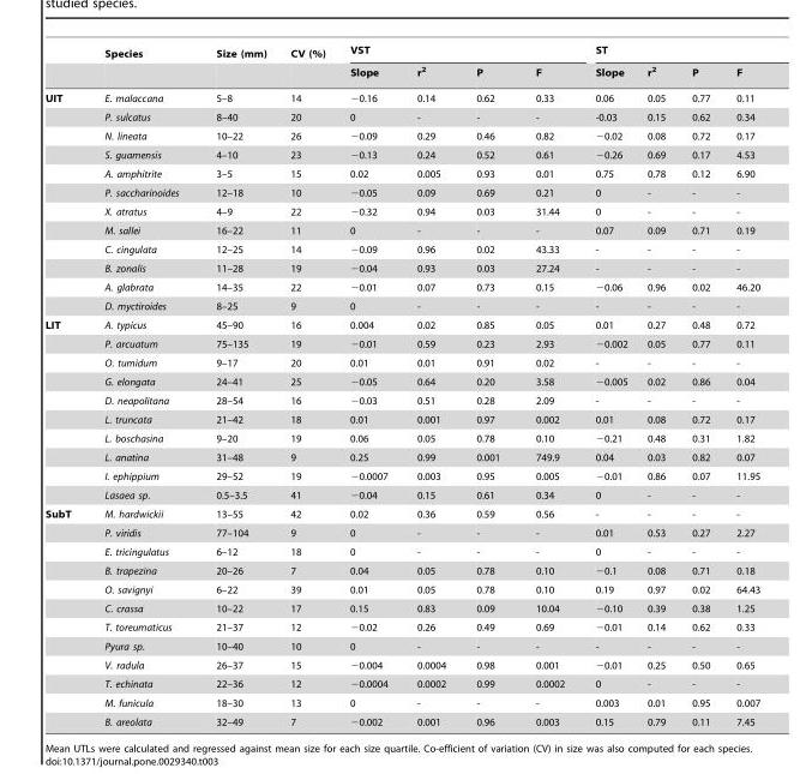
<table><thead><tr><td rowspan="2"></td><td rowspan="2">Species</td><td rowspan="2">Size (mm)</td><td rowspan="2">CV (%)</td><td colspan="4">VST</td><td colspan="4">ST</td></tr><tr><td>Slope</td><td>r<sup>2</sup></td><td>P</td><td>F</td><td>Slope</td><td>r<sup>2</sup></td><td>P</td><td>F</td></tr></thead><tbody><tr><td rowspan="12">UIT</td><td>E. malaccana</td><td>5–8</td><td>14</td><td>−0.16</td><td>0.14</td><td>0.62</td><td>0.33</td><td>0.06</td><td>0.05</td><td>0.77</td><td>0.11</td></tr><tr><td>P. sulcatus</td><td>8–40</td><td>20</td><td>0</td><td>-</td><td>-</td><td>-</td><td>-0.03</td><td>0.15</td><td>0.62</td><td>0.34</td></tr><tr><td>N. lineata</td><td>10–22</td><td>26</td><td>−0.09</td><td>0.29</td><td>0.46</td><td>0.82</td><td>−0.02</td><td>0.08</td><td>0.72</td><td>0.17</td></tr><tr><td>S. guamensis</td><td>4–10</td><td>23</td><td>−0.13</td><td>0.24</td><td>0.52</td><td>0.61</td><td>−0.26</td><td>0.69</td><td>0.17</td><td>4.53</td></tr><tr><td>A. amphitrite</td><td>3–5</td><td>15</td><td>0.02</td><td>0.005</td><td>0.93</td><td>0.01</td><td>0.75</td><td>0.78</td><td>0.12</td><td>6.90</td></tr><tr><td>P. saccharinoides</td><td>12–18</td><td>10</td><td>−0.05</td><td>0.09</td><td>0.69</td><td>0.21</td><td>0</td><td>-</td><td>-</td><td>-</td></tr><tr><td>X. atratus</td><td>4–9</td><td>22</td><td>−0.32</td><td>0.94</td><td>0.03</td><td>31.44</td><td>0</td><td>-</td><td>-</td><td>-</td></tr><tr><td>M. sallei</td><td>16–22</td><td>11</td><td>0</td><td>-</td><td>-</td><td>-</td><td>0.07</td><td>0.09</td><td>0.71</td><td>0.19</td></tr><tr><td>C. cingulata</td><td>12–25</td><td>14</td><td>−0.09</td><td>0.96</td><td>0.02</td><td>43.33</td><td>-</td><td>-</td><td>-</td><td>-</td></tr><tr><td>B. zonalis</td><td>11–28</td><td>19</td><td>−0.04</td><td>0.93</td><td>0.03</td><td>27.24</td><td>-</td><td>-</td><td>-</td><td>-</td></tr><tr><td>A. glabrata</td><td>14–35</td><td>22</td><td>−0.01</td><td>0.07</td><td>0.73</td><td>0.15</td><td>−0.06</td><td>0.96</td><td>0.02</td><td>46.20</td></tr><tr><td>D. myctiroides</td><td>8–25</td><td>9</td><td>0</td><td>-</td><td>-</td><td>-</td><td>-</td><td>-</td><td>-</td><td>-</td></tr><tr><td rowspan="10">LIT</td><td>A. typicus</td><td>45–90</td><td>16</td><td>0.004</td><td>0.02</td><td>0.85</td><td>0.05</td><td>0.01</td><td>0.27</td><td>0.48</td><td>0.72</td></tr><tr><td>P. arcuatum</td><td>75–135</td><td>19</td><td>−0.01</td><td>0.59</td><td>0.23</td><td>2.93</td><td>−0.002</td><td>0.05</td><td>0.77</td><td>0.11</td></tr><tr><td>O. tumidum</td><td>9–17</td><td>20</td><td>0.01</td><td>0.01</td><td>0.91</td><td>0.02</td><td>-</td><td>-</td><td>-</td><td>-</td></tr><tr><td>G. elongata</td><td>24–41</td><td>25</td><td>−0.05</td><td>0.64</td><td>0.20</td><td>3.58</td><td>−0.005</td><td>0.02</td><td>0.86</td><td>0.04</td></tr><tr><td>D. neapolitana</td><td>28–54</td><td>16</td><td>−0.03</td><td>0.51</td><td>0.28</td><td>2.09</td><td>-</td><td>-</td><td>-</td><td>-</td></tr><tr><td>L. truncata</td><td>21–42</td><td>18</td><td>0.01</td><td>0.001</td><td>0.97</td><td>0.002</td><td>0.01</td><td>0.08</td><td>0.72</td><td>0.17</td></tr><tr><td>L. boschasina</td><td>9–20</td><td>19</td><td>0.06</td><td>0.05</td><td>0.78</td><td>0.10</td><td>−0.21</td><td>0.48</td><td>0.31</td><td>1.82</td></tr><tr><td>L. anatina</td><td>31–48</td><td>9</td><td>0.25</td><td>0.99</td><td>0.001</td><td>749.9</td><td>0.04</td><td>0.03</td><td>0.82</td><td>0.07</td></tr><tr><td>I. ephippium</td><td>29–52</td><td>19</td><td>−0.0007</td><td>0.003</td><td>0.95</td><td>0.005</td><td>−0.01</td><td>0.86</td><td>0.07</td><td>11.95</td></tr><tr><td>Lasaea sp.</td><td>0.5–3.5</td><td>41</td><td>−0.04</td><td>0.15</td><td>0.61</td><td>0.34</td><td>0</td><td>-</td><td>-</td><td>-</td></tr><tr><td rowspan="12">SubT</td><td>M. hardwickii</td><td>13–55</td><td>42</td><td>0.02</td><td>0.36</td><td>0.59</td><td>0.56</td><td>-</td><td>-</td><td>-</td><td>-</td></tr><tr><td>P. viridis</td><td>77–104</td><td>9</td><td>0</td><td>-</td><td>-</td><td>-</td><td>0.01</td><td>0.53</td><td>0.27</td><td>2.27</td></tr><tr><td>E. tricingulatus</td><td>6–12</td><td>18</td><td>0</td><td>-</td><td>-</td><td>-</td><td>0</td><td>-</td><td>-</td><td>-</td></tr><tr><td>B. trapezina</td><td>20–26</td><td>7</td><td>0.04</td><td>0.05</td><td>0.78</td><td>0.10</td><td>−0.1</td><td>0.08</td><td>0.71</td><td>0.18</td></tr><tr><td>O. savignyi</td><td>6–22</td><td>39</td><td>0.01</td><td>0.05</td><td>0.78</td><td>0.10</td><td>0.19</td><td>0.97</td><td>0.02</td><td>64.43</td></tr><tr><td>C. crassa</td><td>10–22</td><td>17</td><td>0.15</td><td>0.83</td><td>0.09</td><td>10.04</td><td>−0.10</td><td>0.39</td><td>0.38</td><td>1.25</td></tr><tr><td>T. toreumaticus</td><td>21–37</td><td>12</td><td>−0.02</td><td>0.26</td><td>0.49</td><td>0.69</td><td>−0.01</td><td>0.14</td><td>0.62</td><td>0.33</td></tr><tr><td>Pyura sp.</td><td>10–40</td><td>10</td><td>0</td><td>-</td><td>-</td><td>-</td><td>-</td><td>-</td><td>-</td><td>-</td></tr><tr><td>V. radula</td><td>26–37</td><td>15</td><td>−0.004</td><td>0.0004</td><td>0.98</td><td>0.001</td><td>−0.01</td><td>0.25</td><td>0.50</td><td>0.65</td></tr><tr><td>T. echinata</td><td>22–36</td><td>12</td><td>−0.0004</td><td>0.0002</td><td>0.99</td><td>0.0002</td><td>0</td><td>-</td><td>-</td><td>-</td></tr><tr><td>M. funicula</td><td>18–30</td><td>13</td><td>0</td><td>-</td><td>-</td><td>-</td><td>0.003</td><td>0.01</td><td>0.95</td><td>0.007</td></tr><tr><td>B. areolata</td><td>32–49</td><td>7</td><td>−0.002</td><td>0.001</td><td>0.96</td><td>0.003</td><td>0.15</td><td>0.79</td><td>0.11</td><td>7.45</td></tr></tbody></table>